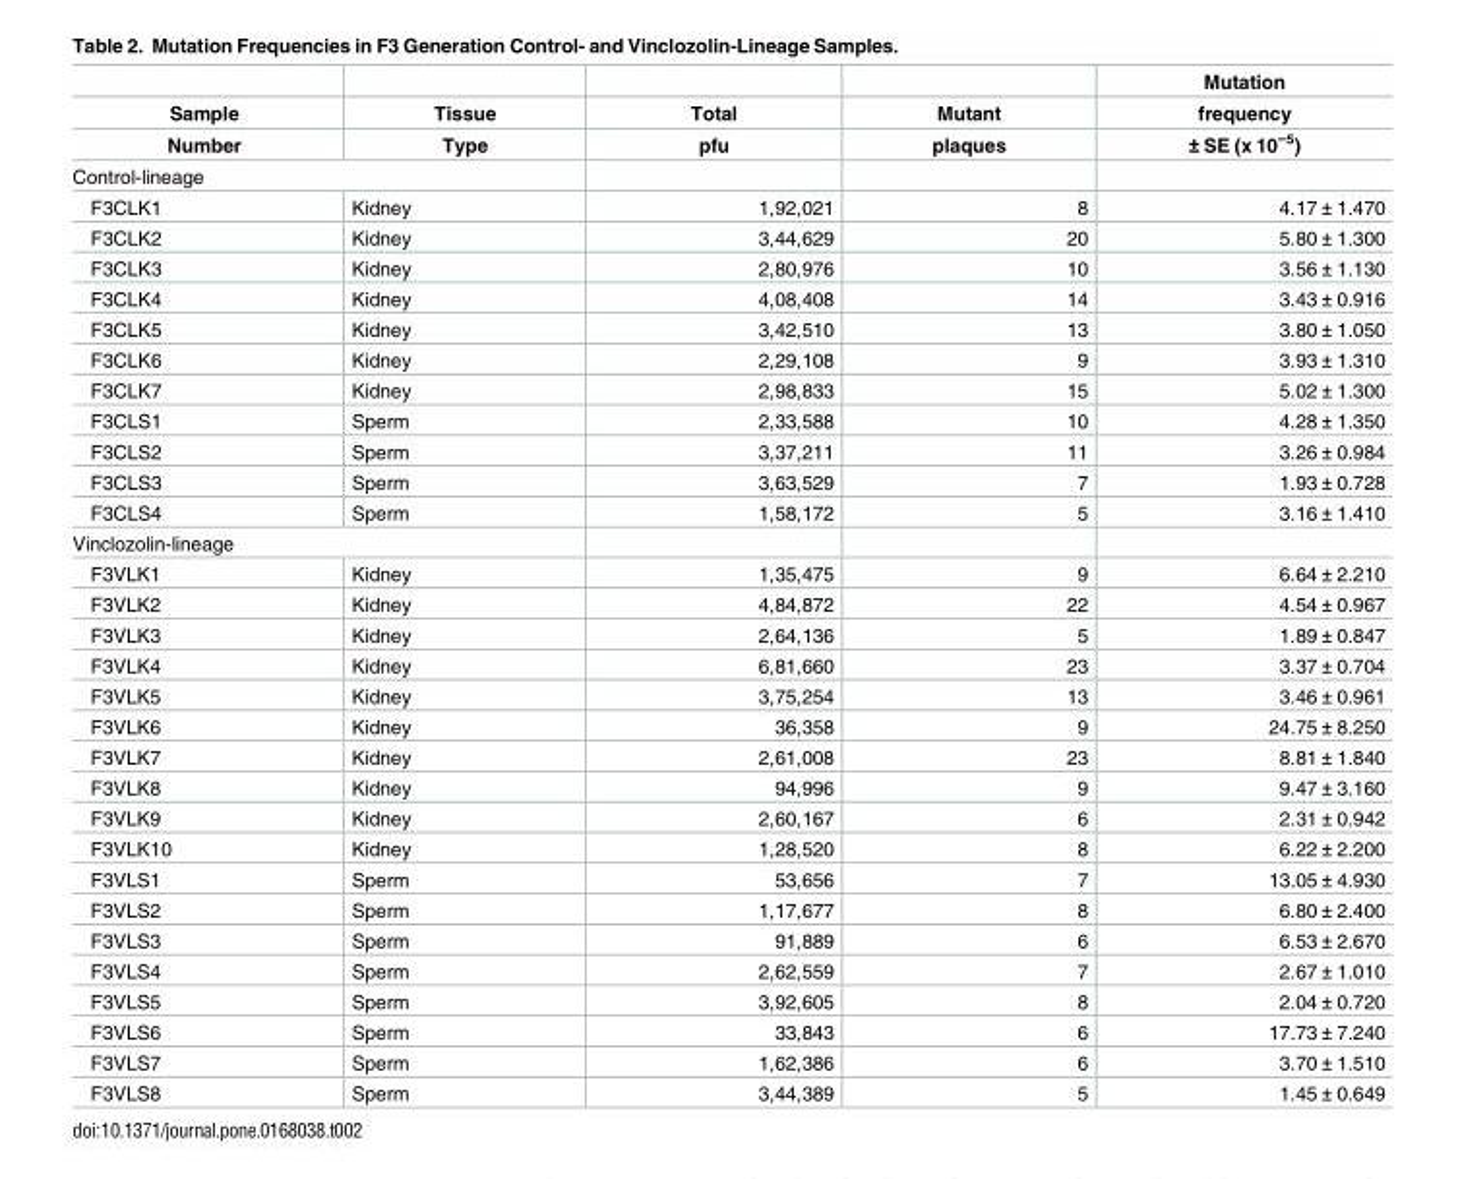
<table><thead><tr><td rowspan="3">Sample Number</td><td rowspan="3">Tissue Type</td><td rowspan="3">Total pfu</td><td rowspan="3">Mutant plaques</td><td rowspan="3">Mutation frequency ± SE (x 10<sup>−5</sup>)</td></tr><tr></tr><tr></tr></thead><tbody><tr><td colspan="5">Control-lineage</td></tr><tr><td>F3CLK1</td><td>Kidney</td><td>1,92,021</td><td>8</td><td>4.17 ± 1.470</td></tr><tr><td>F3CLK2</td><td>Kidney</td><td>3,44,629</td><td>20</td><td>5.80 ± 1.300</td></tr><tr><td>F3CLK3</td><td>Kidney</td><td>2,80,976</td><td>10</td><td>3.56 ± 1.130</td></tr><tr><td>F3CLK4</td><td>Kidney</td><td>4,08,408</td><td>14</td><td>3.43 ± 0.916</td></tr><tr><td>F3CLK5</td><td>Kidney</td><td>3,42,510</td><td>13</td><td>3.80 ± 1.050</td></tr><tr><td>F3CLK6</td><td>Kidney</td><td>2,29,108</td><td>9</td><td>3.93 ± 1.310</td></tr><tr><td>F3CLK7</td><td>Kidney</td><td>2,98,833</td><td>15</td><td>5.02 ± 1.300</td></tr><tr><td>F3CLS1</td><td>Sperm</td><td>2,33,588</td><td>10</td><td>4.28 ± 1.350</td></tr><tr><td>F3CLS2</td><td>Sperm</td><td>3,37,211</td><td>11</td><td>3.26 ± 0.984</td></tr><tr><td>F3CLS3</td><td>Sperm</td><td>3,63,529</td><td>7</td><td>1.93 ± 0.728</td></tr><tr><td>F3CLS4</td><td>Sperm</td><td>1,58,172</td><td>5</td><td>3.16 ± 1.410</td></tr><tr><td colspan="5">Vinclozolin-lineage</td></tr><tr><td>F3VLK1</td><td>Kidney</td><td>1,35,475</td><td>9</td><td>6.64 ± 2.210</td></tr><tr><td>F3VLK2</td><td>Kidney</td><td>4,84,872</td><td>22</td><td>4.54 ± 0.967</td></tr><tr><td>F3VLK3</td><td>Kidney</td><td>2,64,136</td><td>5</td><td>1.89 ± 0.847</td></tr><tr><td>F3VLK4</td><td>Kidney</td><td>6,81,660</td><td>23</td><td>3.37 ± 0.704</td></tr><tr><td>F3VLK5</td><td>Kidney</td><td>3,75,254</td><td>13</td><td>3.46 ± 0.961</td></tr><tr><td>F3VLK6</td><td>Kidney</td><td>36,358</td><td>9</td><td>24.75 ± 8.250</td></tr><tr><td>F3VLK7</td><td>Kidney</td><td>2,61,008</td><td>23</td><td>8.81 ± 1.840</td></tr><tr><td>F3VLK8</td><td>Kidney</td><td>94,996</td><td>9</td><td>9.47 ± 3.160</td></tr><tr><td>F3VLK9</td><td>Kidney</td><td>2,60,167</td><td>6</td><td>2.31 ± 0.942</td></tr><tr><td>F3VLK10</td><td>Kidney</td><td>1,28,520</td><td>8</td><td>6.22 ± 2.200</td></tr><tr><td>F3VLS1</td><td>Sperm</td><td>53,656</td><td>7</td><td>13.05 ± 4.930</td></tr><tr><td>F3VLS2</td><td>Sperm</td><td>1,17,677</td><td>8</td><td>6.80 ± 2.400</td></tr><tr><td>F3VLS3</td><td>Sperm</td><td>91,889</td><td>6</td><td>6.53 ± 2.670</td></tr><tr><td>F3VLS4</td><td>Sperm</td><td>2,62,559</td><td>7</td><td>2.67 ± 1.010</td></tr><tr><td>F3VLS5</td><td>Sperm</td><td>3,92,605</td><td>8</td><td>2.04 ± 0.720</td></tr><tr><td>F3VLS6</td><td>Sperm</td><td>33,843</td><td>6</td><td>17.73 ± 7.240</td></tr><tr><td>F3VLS7</td><td>Sperm</td><td>1,62,386</td><td>6</td><td>3.70 ± 1.510</td></tr><tr><td>F3VLS8</td><td>Sperm</td><td>3,44,389</td><td>5</td><td>1.45 ± 0.649</td></tr></tbody></table>